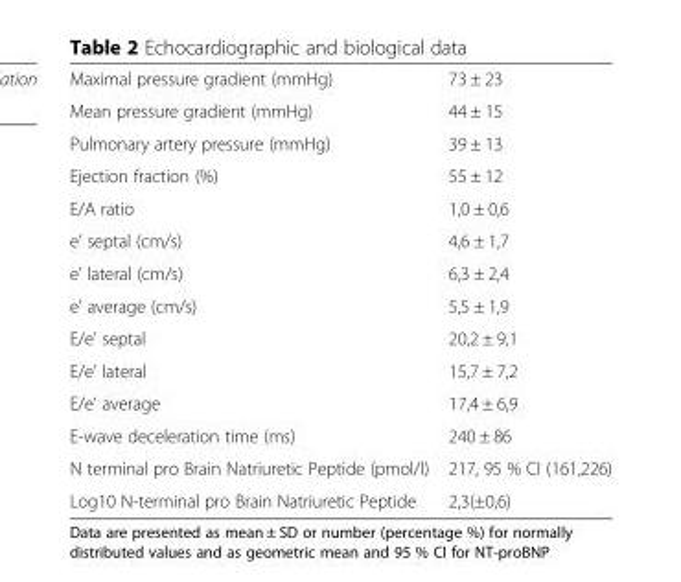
<table><tbody><tr><td>Maximal pressure gradient (mmHg)</td><td>73 ± 23</td></tr><tr><td>Mean pressure gradient (mmHg)</td><td>44 ± 15</td></tr><tr><td>Pulmonary artery pressure (mmHg)</td><td>39 ± 13</td></tr><tr><td>Ejection fraction (%)</td><td>55 ± 12</td></tr><tr><td>E/A ratio</td><td>1,0 ± 0,6</td></tr><tr><td>e’ septal (cm/s)</td><td>4,6 ± 1,7</td></tr><tr><td>e’ lateral (cm/s)</td><td>6,3 ± 2,4</td></tr><tr><td>e’ average (cm/s)</td><td>5,5 ± 1,9</td></tr><tr><td>E/e’ septal</td><td>20,2 ± 9,1</td></tr><tr><td>E/e’ lateral</td><td>15,7 ± 7,2</td></tr><tr><td>E/e’ average</td><td>17,4 ± 6,9</td></tr><tr><td>E-wave deceleration time (ms)</td><td>240 ± 86</td></tr><tr><td>N terminal pro Brain Natriuretic Peptide (pmol/l)</td><td>217, 95 % CI (161,226)</td></tr><tr><td>Log10 N-terminal pro Brain Natriuretic Peptide</td><td>2,3(±0,6)</td></tr></tbody></table>